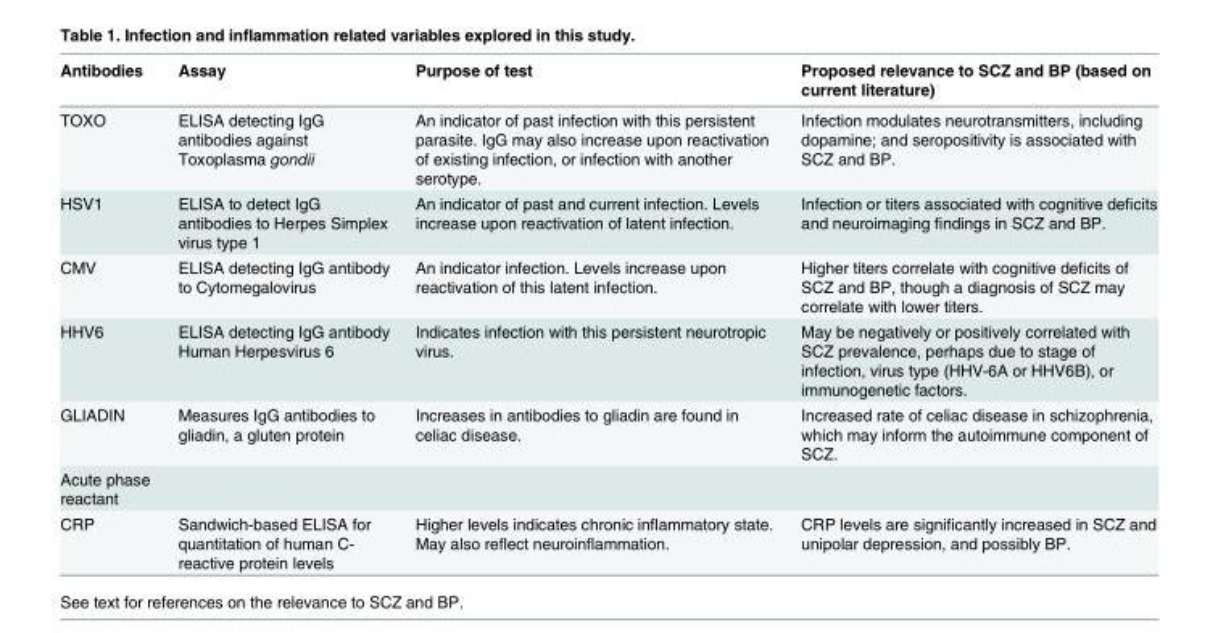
<table><thead><tr><td>Antibodies</td><td>Assay</td><td>Purpose of test</td><td>Proposed relevance to SCZ and BP (based on current literature)</td></tr></thead><tbody><tr><td>TOXO</td><td>ELISA detecting IgG antibodies against Toxoplasma gondii</td><td>An indicator of past infection with this persistent parasite. IgG may also increase upon reactivation of existing infection, or infection with another serotype.</td><td>Infection modulates neurotransmitters, including dopamine; and seropositivity is associated with SCZ and BP.</td></tr><tr><td>HSV1</td><td>ELISA to detect IgG antibodies to Herpes Simplex virus type 1</td><td>An indicator of past and current infection. Levels increase upon reactivation of latent infection.</td><td>Infection or titers associated with cognitive deficits and neuroimaging findings in SCZ and BP.</td></tr><tr><td>CMV</td><td>ELISA detecting IgG antibody to Cytomegalovirus</td><td>An indicator infection. Levels increase upon reactivation of this latent infection.</td><td>Higher titers correlate with cognitive deficits of SCZ and BP, though a diagnosis of SCZ may correlate with lower titers.</td></tr><tr><td>HHV6</td><td>ELISA detecting IgG antibody Human Herpesvirus 6</td><td>Indicates infection with this persistent neurotropic virus.</td><td>May be negatively or positively correlated with SCZ prevalence, perhaps due to stage of infection, virus type (HHV-6A or HHV6B), or immunogenetic factors.</td></tr><tr><td>GLIADIN</td><td>Measures IgG antibodies to gliadin, a gluten protein</td><td>Increases in antibodies to gliadin are found in celiac disease.</td><td>Increased rate of celiac disease in schizophrenia, which may inform the autoimmune component of SCZ.</td></tr><tr><td colspan="4">Acute phase reactant</td></tr><tr><td>CRP</td><td>Sandwich-based ELISA for quantitation of human C- reactive protein levels</td><td>Higher levels indicates chronic inflammatory state. May also reflect neuroinflammation.</td><td>CRP levels are significantly increased in SCZ and unipolar depression, and possibly BP.</td></tr></tbody></table>